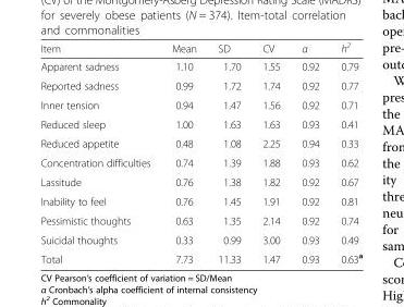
<table><thead><tr><td>Item</td><td>Mean</td><td>SD</td><td>CV</td><td>α</td><td>h<sup>2</sup></td></tr></thead><tbody><tr><td>Apparent sadness</td><td>1.10</td><td>1.70</td><td>1.55</td><td>0.92</td><td>0.79</td></tr><tr><td>Reported sadness</td><td>0.99</td><td>1.72</td><td>1.74</td><td>0.92</td><td>0.77</td></tr><tr><td>Inner tension</td><td>0.94</td><td>1.47</td><td>1.56</td><td>0.92</td><td>0.71</td></tr><tr><td>Reduced sleep</td><td>1.00</td><td>1.63</td><td>1.63</td><td>0.93</td><td>0.41</td></tr><tr><td>Reduced appetite</td><td>0.48</td><td>1.08</td><td>2.25</td><td>0.94</td><td>0.33</td></tr><tr><td>Concentration difficulties</td><td>0.74</td><td>1.39</td><td>1.88</td><td>0.93</td><td>0.62</td></tr><tr><td>Lassitude</td><td>0.76</td><td>1.38</td><td>1.82</td><td>0.92</td><td>0.67</td></tr><tr><td>Inability to feel</td><td>0.76</td><td>1.45</td><td>1.91</td><td>0.92</td><td>0.81</td></tr><tr><td>Pessimistic thoughts</td><td>0.63</td><td>1.35</td><td>2.14</td><td>0.92</td><td>0.74</td></tr><tr><td>Suicidal thoughts</td><td>0.33</td><td>0.99</td><td>3.00</td><td>0.93</td><td>0.49</td></tr><tr><td>Total</td><td>7.73</td><td>11.33</td><td>1.47</td><td>0.93</td><td>0.63<sup>a</sup></td></tr></tbody></table>